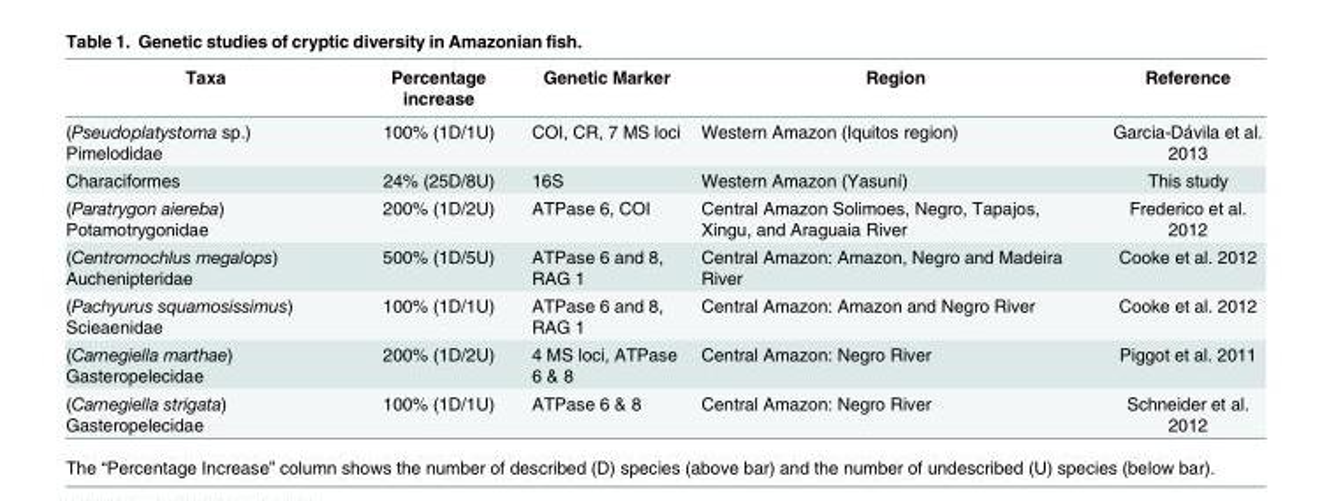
<table><thead><tr><td>Taxa</td><td>Percentage increase</td><td>Genetic Marker</td><td>Region</td><td>Reference</td></tr></thead><tbody><tr><td>(Pseudoplatystoma sp.) Pimelodidae</td><td>100% (1D/1U)</td><td>COI, CR, 7 MS loci</td><td>Western Amazon (Iquitos region)</td><td>Garcia-Dávila et al. 2013</td></tr><tr><td>Characiformes</td><td>24% (25D/8U)</td><td>16S</td><td>Western Amazon (Yasuní)</td><td>This study</td></tr><tr><td>(Paratrygon aiereba) Potamotrygonidae</td><td>200% (1D/2U)</td><td>ATPase 6, COI</td><td>Central Amazon Solimoes, Negro, Tapajos, Xingu, and Araguaia River</td><td>Frederico et al. 2012</td></tr><tr><td>(Centromochlus megalops) Auchenipteridae</td><td>500% (1D/5U)</td><td>ATPase 6 and 8, RAG 1</td><td>Central Amazon: Amazon, Negro and Madeira River</td><td>Cooke et al. 2012</td></tr><tr><td>(Pachyurus squamosissimus) Scieaenidae</td><td>100% (1D/1U)</td><td>ATPase 6 and 8, RAG 1</td><td>Central Amazon: Amazon and Negro River</td><td>Cooke et al. 2012</td></tr><tr><td>(Carnegiella marthae) Gasteropelecidae</td><td>200% (1D/2U)</td><td>4 MS loci, ATPase 6 &amp; 8</td><td>Central Amazon: Negro River</td><td>Piggot et al. 2011</td></tr><tr><td>(Carnegiella strigata) Gasteropelecidae</td><td>100% (1D/1U)</td><td>ATPase 6 &amp; 8</td><td>Central Amazon: Negro River</td><td>Schneider et al. 2012</td></tr></tbody></table>